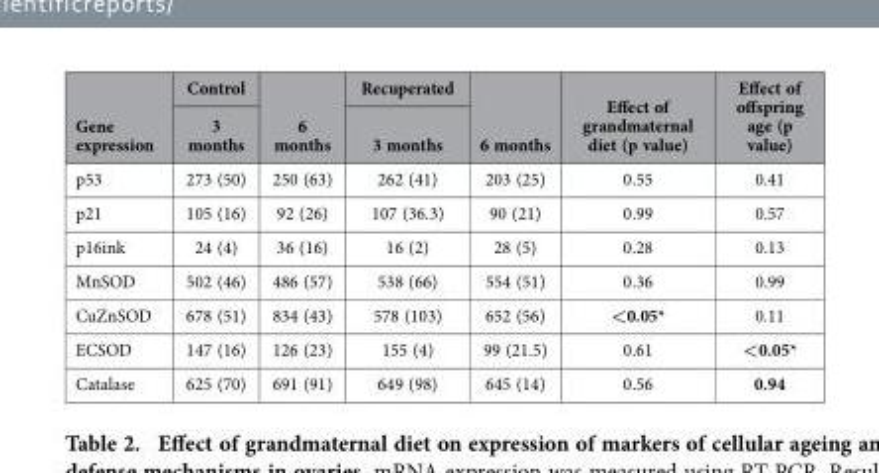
<table><thead><tr><td rowspan="2">Gene expression</td><td rowspan="2">Control 3 months</td><td rowspan="2">6 months</td><td rowspan="2">Recuperated 3 months</td><td rowspan="2">6 months</td><td rowspan="2">Effect of grandmaternal diet (p value)</td><td rowspan="2">Effect of offspring age (p value)</td></tr><tr></tr></thead><tbody><tr><td>p53</td><td>273 (50)</td><td>250 (63)</td><td>262 (41)</td><td>203 (25)</td><td>0.55</td><td>0.41</td></tr><tr><td>p21</td><td>105 (16)</td><td>92 (26)</td><td>107 (36.3)</td><td>90 (21)</td><td>0.99</td><td>0.57</td></tr><tr><td>p16ink</td><td>24 (4)</td><td>36 (16)</td><td>16 (2)</td><td>28 (5)</td><td>0.28</td><td>0.13</td></tr><tr><td>MnSOD</td><td>502 (46)</td><td>486 (57)</td><td>538 (66)</td><td>554 (51)</td><td>0.36</td><td>0.99</td></tr><tr><td>CuZnSOD</td><td>678 (51)</td><td>834 (43)</td><td>578 (103)</td><td>652 (56)</td><td>&lt;0.05*</td><td>0.11</td></tr><tr><td>ECSOD</td><td>147 (16)</td><td>126 (23)</td><td>155 (4)</td><td>99 (21.5)</td><td>0.61</td><td>&lt;0.05*</td></tr><tr><td>Catalase</td><td>625 (70)</td><td>691 (91)</td><td>649 (98)</td><td>645 (14)</td><td>0.56</td><td>0.94</td></tr></tbody></table>